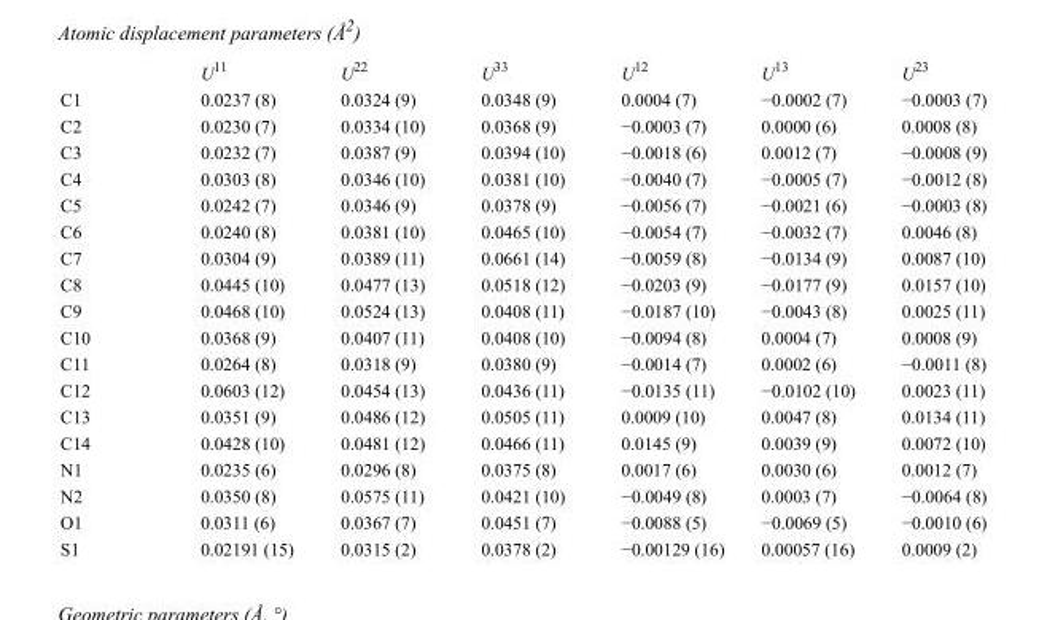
<table><thead><tr><td></td><td>U<sup>11</sup></td><td>U<sup>22</sup></td><td>U<sup>33</sup></td><td>U<sup>12</sup></td><td>U<sup>13</sup></td><td>U<sup>23</sup></td></tr></thead><tbody><tr><td>C1</td><td>0.0237 (8)</td><td>0.0324 (9)</td><td>0.0348 (9)</td><td>0.0004 (7)</td><td>−0.0002 (7)</td><td>−0.0003 (7)</td></tr><tr><td>C2</td><td>0.0230 (7)</td><td>0.0334 (10)</td><td>0.0368 (9)</td><td>−0.0003 (7)</td><td>0.0000 (6)</td><td>0.0008 (8)</td></tr><tr><td>C3</td><td>0.0232 (7)</td><td>0.0387 (9)</td><td>0.0394 (10)</td><td>−0.0018 (6)</td><td>0.0012 (7)</td><td>−0.0008 (9)</td></tr><tr><td>C4</td><td>0.0303 (8)</td><td>0.0346 (10)</td><td>0.0381 (10)</td><td>−0.0040 (7)</td><td>−0.0005 (7)</td><td>−0.0012 (8)</td></tr><tr><td>C5</td><td>0.0242 (7)</td><td>0.0346 (9)</td><td>0.0378 (9)</td><td>−0.0056 (7)</td><td>−0.0021 (6)</td><td>−0.0003 (8)</td></tr><tr><td>C6</td><td>0.0240 (8)</td><td>0.0381 (10)</td><td>0.0465 (10)</td><td>−0.0054 (7)</td><td>−0.0032 (7)</td><td>0.0046 (8)</td></tr><tr><td>C7</td><td>0.0304 (9)</td><td>0.0389 (11)</td><td>0.0661 (14)</td><td>−0.0059 (8)</td><td>−0.0134 (9)</td><td>0.0087 (10)</td></tr><tr><td>C8</td><td>0.0445 (10)</td><td>0.0477 (13)</td><td>0.0518 (12)</td><td>−0.0203 (9)</td><td>−0.0177 (9)</td><td>0.0157 (10)</td></tr><tr><td>C9</td><td>0.0468 (10)</td><td>0.0524 (13)</td><td>0.0408 (11)</td><td>−0.0187 (10)</td><td>−0.0043 (8)</td><td>0.0025 (11)</td></tr><tr><td>C10</td><td>0.0368 (9)</td><td>0.0407 (11)</td><td>0.0408 (10)</td><td>−0.0094 (8)</td><td>0.0004 (7)</td><td>0.0008 (9)</td></tr><tr><td>C11</td><td>0.0264 (8)</td><td>0.0318 (9)</td><td>0.0380 (9)</td><td>−0.0014 (7)</td><td>0.0002 (6)</td><td>−0.0011 (8)</td></tr><tr><td>C12</td><td>0.0603 (12)</td><td>0.0454 (13)</td><td>0.0436 (11)</td><td>−0.0135 (11)</td><td>−0.0102 (10)</td><td>0.0023 (11)</td></tr><tr><td>C13</td><td>0.0351 (9)</td><td>0.0486 (12)</td><td>0.0505 (11)</td><td>0.0009 (10)</td><td>0.0047 (8)</td><td>0.0134 (11)</td></tr><tr><td>C14</td><td>0.0428 (10)</td><td>0.0481 (12)</td><td>0.0466 (11)</td><td>0.0145 (9)</td><td>0.0039 (9)</td><td>0.0072 (10)</td></tr><tr><td>N1</td><td>0.0235 (6)</td><td>0.0296 (8)</td><td>0.0375 (8)</td><td>0.0017 (6)</td><td>0.0030 (6)</td><td>0.0012 (7)</td></tr><tr><td>N2</td><td>0.0350 (8)</td><td>0.0575 (11)</td><td>0.0421 (10)</td><td>−0.0049 (8)</td><td>0.0003 (7)</td><td>−0.0064 (8)</td></tr><tr><td>O1</td><td>0.0311 (6)</td><td>0.0367 (7)</td><td>0.0451 (7)</td><td>−0.0088 (5)</td><td>−0.0069 (5)</td><td>−0.0010 (6)</td></tr><tr><td>S1</td><td>0.02191 (15)</td><td>0.0315 (2)</td><td>0.0378 (2)</td><td>−0.00129 (16)</td><td>0.00057 (16)</td><td>0.0009 (2)</td></tr></tbody></table>